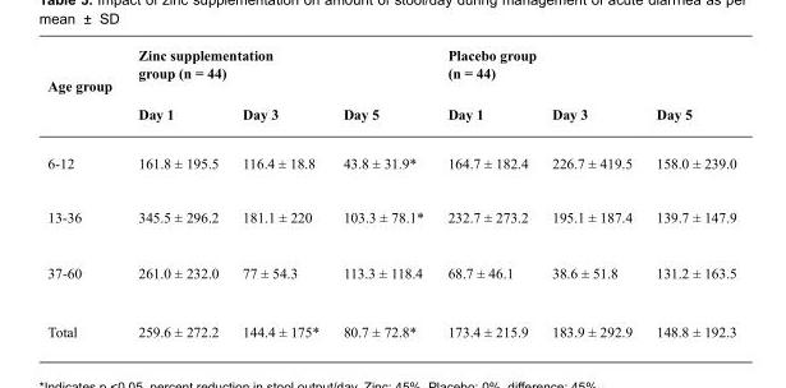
<table><thead><tr><td rowspan="2">Age group</td><td colspan="3">Zinc supplementation group (n = 44)</td><td colspan="3">Placebo group (n = 44)</td></tr><tr><td>Day 1</td><td>Day 3</td><td>Day 5</td><td>Day 1</td><td>Day 3</td><td>Day 5</td></tr></thead><tbody><tr><td>6-12</td><td>161.8 ± 195.5</td><td>116.4 ± 18.8</td><td>43.8 ± 31.9*</td><td>164.7 ± 182.4</td><td>226.7 ± 419.5</td><td>158.0 ± 239.0</td></tr><tr><td>13-36</td><td>345.5 ± 296.2</td><td>181.1 ± 220</td><td>103.3 ± 78.1*</td><td>232.7 ± 273.2</td><td>195.1 ± 187.4</td><td>139.7 ± 147.9</td></tr><tr><td>37-60</td><td>261.0 ± 232.0</td><td>77 ± 54.3</td><td>113.3 ± 118.4</td><td>68.7 ± 46.1</td><td>38.6 ± 51.8</td><td>131.2 ± 163.5</td></tr><tr><td>Total</td><td>259.6 ± 272.2</td><td>144.4 ± 175*</td><td>80.7 ± 72.8*</td><td>173.4 ± 215.9</td><td>183.9 ± 292.9</td><td>148.8 ± 192.3</td></tr></tbody></table>